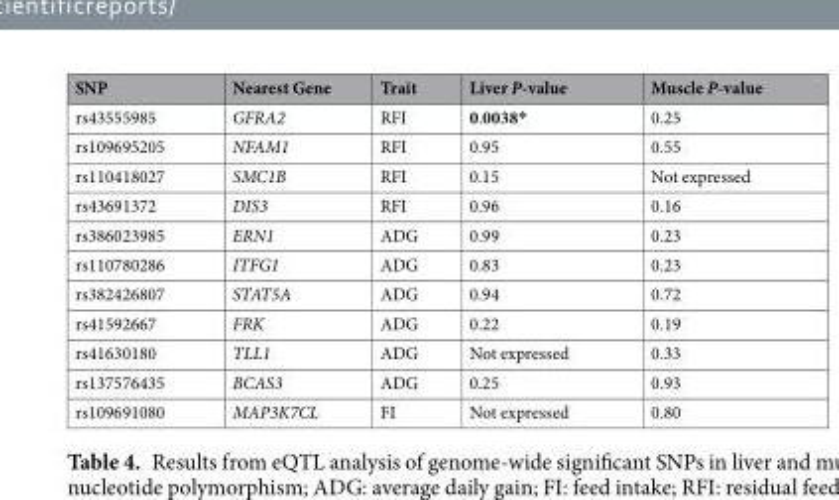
<table><thead><tr><td>SNP</td><td>Nearest Gene</td><td>Trait</td><td>Liver P-value</td><td>Muscle P-value</td></tr></thead><tbody><tr><td>rs43555985</td><td>GFRA2</td><td>RFI</td><td>0.0038*</td><td>0.25</td></tr><tr><td>rs109695205</td><td>NFAM1</td><td>RFI</td><td>0.95</td><td>0.55</td></tr><tr><td>rs110418027</td><td>SMC1B</td><td>RFI</td><td>0.15</td><td>Not expressed</td></tr><tr><td>rs43691372</td><td>DIS3</td><td>RFI</td><td>0.96</td><td>0.16</td></tr><tr><td>rs386023985</td><td>ERN1</td><td>ADG</td><td>0.99</td><td>0.23</td></tr><tr><td>rs110780286</td><td>ITFG1</td><td>ADG</td><td>0.83</td><td>0.23</td></tr><tr><td>rs382426807</td><td>STAT5A</td><td>ADG</td><td>0.94</td><td>0.72</td></tr><tr><td>rs41592667</td><td>FRK</td><td>ADG</td><td>0.22</td><td>0.19</td></tr><tr><td>rs41630180</td><td>TLL1</td><td>ADG</td><td>Not expressed</td><td>0.33</td></tr><tr><td>rs137576435</td><td>BCAS3</td><td>ADG</td><td>0.25</td><td>0.93</td></tr><tr><td>rs109691080</td><td>MAP3K7CL</td><td>FI</td><td>Not expressed</td><td>0.80</td></tr></tbody></table>